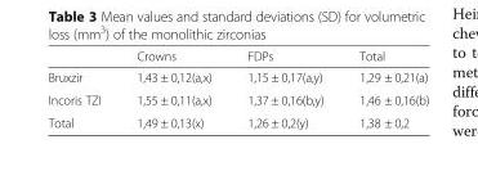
<table><thead><tr><td></td><td>Crowns</td><td>FDPs</td><td>Total</td></tr></thead><tbody><tr><td>Bruxzir</td><td>1,43 ± 0,12(a,x)</td><td>1,15 ± 0,17(a,y)</td><td>1,29 ± 0,21(a)</td></tr><tr><td>Incoris TZI</td><td>1,55 ± 0,11(a,x)</td><td>1,37 ± 0,16(b,y)</td><td>1,46 ± 0,16(b)</td></tr><tr><td>Total</td><td>1,49 ± 0,13(x)</td><td>1,26 ± 0,2(y)</td><td>1,38 ± 0,2</td></tr></tbody></table>